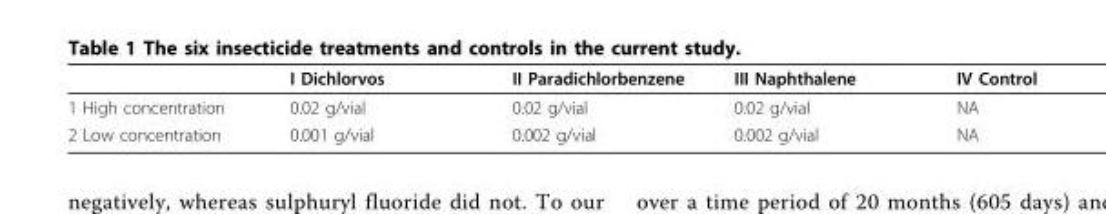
<table><thead><tr><td></td><td>I Dichlorvos</td><td>II Paradichlorbenzene</td><td>III Naphthalene</td><td>IV Control</td></tr></thead><tbody><tr><td>1 High concentration</td><td>0.02 g/vial</td><td>0.02 g/vial</td><td>0.02 g/vial</td><td>NA</td></tr><tr><td>2 Low concentration</td><td>0.001 g/vial</td><td>0.002 g/vial</td><td>0.002 g/vial</td><td>NA</td></tr></tbody></table>